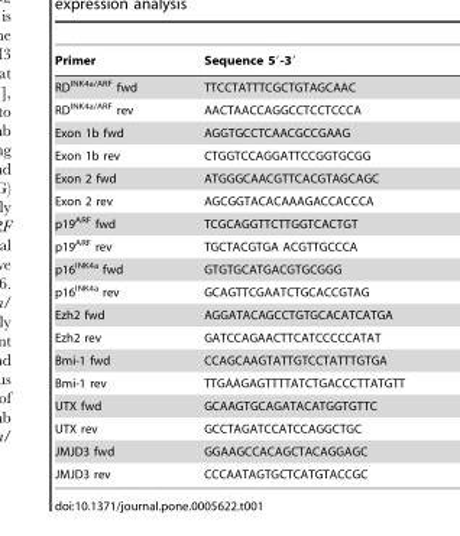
<table><thead><tr><td>Primer</td><td>Sequence 5′-3′</td></tr></thead><tbody><tr><td>RD<sup>INK4a/ARF</sup> fwd</td><td>TTCCTATTTCGCTGTAGCAAC</td></tr><tr><td>RD<sup>INK4a/ARF</sup> rev</td><td>AACTAACCAGGCCTCCTCCCA</td></tr><tr><td>Exon 1b fwd</td><td>AGGTGCCTCAACGCCGAAG</td></tr><tr><td>Exon 1b rev</td><td>CTGGTCCAGGATTCCGGTGCGG</td></tr><tr><td>Exon 2 fwd</td><td>ATGGGCAACGTTCACGTAGCAGC</td></tr><tr><td>Exon 2 rev</td><td>AGCGGTACACAAAGACCACCCA</td></tr><tr><td>p19<sup>ARF</sup> fwd</td><td>TCGCAGGTTCTTGGTCACTGT</td></tr><tr><td>p19<sup>ARF</sup> rev</td><td>TGCTACGTGA ACGTTGCCCA</td></tr><tr><td>p16<sup>INK4a</sup> fwd</td><td>GTGTGCATGACGTGCGGG</td></tr><tr><td>p16<sup>INK4a</sup> rev</td><td>GCAGTTCGAATCTGCACCGTAG</td></tr><tr><td>Ezh2 fwd</td><td>AGGATACAGCCTGTGCACATCATGA</td></tr><tr><td>Ezh2 rev</td><td>GATCCAGAACTTCATCCCCCATAT</td></tr><tr><td>Bmi-1 fwd</td><td>CCAGCAAGTATTGTCCTATTTGTGA</td></tr><tr><td>Bmi-1 rev</td><td>TTGAAGAGTTTTATCTGACCCTTATGTT</td></tr><tr><td>UTX fwd</td><td>GCAAGTGCAGATACATGGTGTTC</td></tr><tr><td>UTX rev</td><td>GCCTAGATCCATCCAGGCTGC</td></tr><tr><td>JMJD3 fwd</td><td>GGAAGCCACAGCTACAGGAGC</td></tr><tr><td>JMJD3 rev</td><td>CCCAATAGTGCTCATGTACCGC</td></tr></tbody></table>